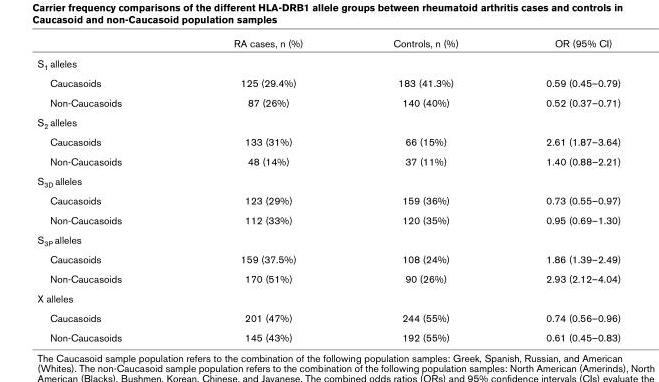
<table><thead><tr><td></td><td>RA cases, n (%)</td><td>Controls, n (%)</td><td>OR (95% CI)</td></tr></thead><tbody><tr><td colspan="4">S<sub>1</sub> alleles</td></tr><tr><td>Caucasoids</td><td>125 (29.4%)</td><td>183 (41.3%)</td><td>0.59 (0.45–0.79)</td></tr><tr><td>Non-Caucasoids</td><td>87 (26%)</td><td>140 (40%)</td><td>0.52 (0.37–0.71)</td></tr><tr><td colspan="4">S<sub>2</sub> alleles</td></tr><tr><td>Caucasoids</td><td>133 (31%)</td><td>66 (15%)</td><td>2.61 (1.87–3.64)</td></tr><tr><td>Non-Caucasoids</td><td>48 (14%)</td><td>37 (11%)</td><td>1.40 (0.88–2.21)</td></tr><tr><td colspan="4">S<sub>3D</sub> alleles</td></tr><tr><td>Caucasoids</td><td>123 (29%)</td><td>159 (36%)</td><td>0.73 (0.55–0.97)</td></tr><tr><td>Non-Caucasoids</td><td>112 (33%)</td><td>120 (35%)</td><td>0.95 (0.69–1.30)</td></tr><tr><td colspan="4">S<sub>3P</sub> alleles</td></tr><tr><td>Caucasoids</td><td>159 (37.5%)</td><td>108 (24%)</td><td>1.86 (1.39–2.49)</td></tr><tr><td>Non-Caucasoids</td><td>170 (51%)</td><td>90 (26%)</td><td>2.93 (2.12–4.04)</td></tr><tr><td colspan="4">X alleles</td></tr><tr><td>Caucasoids</td><td>201 (47%)</td><td>244 (55%)</td><td>0.74 (0.56–0.96)</td></tr><tr><td>Non-Caucasoids</td><td>145 (43%)</td><td>192 (55%)</td><td>0.61 (0.45–0.83)</td></tr></tbody></table>